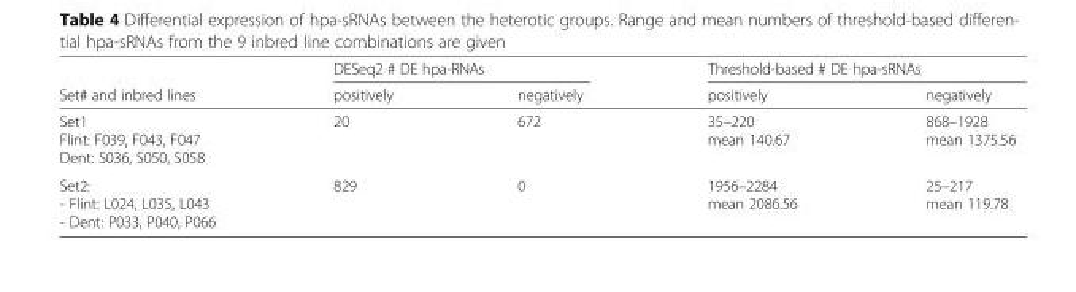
<table><thead><tr><td rowspan="2">Set# and inbred lines</td><td colspan="2">DESeq2 # DE hpa-RNAs</td><td colspan="2">Threshold-based # DE hpa-sRNAs</td></tr><tr><td>positively</td><td>negatively</td><td>positively</td><td>negatively</td></tr></thead><tbody><tr><td>Set1 Flint: F039, F043, F047 Dent: S036, S050, S058</td><td>20</td><td>672</td><td>35–220 mean 140.67</td><td>868–1928 mean 1375.56</td></tr><tr><td>Set2: - Flint: L024, L035, L043 - Dent: P033, P040, P066</td><td>829</td><td>0</td><td>1956–2284 mean 2086.56</td><td>25–217 mean 119.78</td></tr></tbody></table>